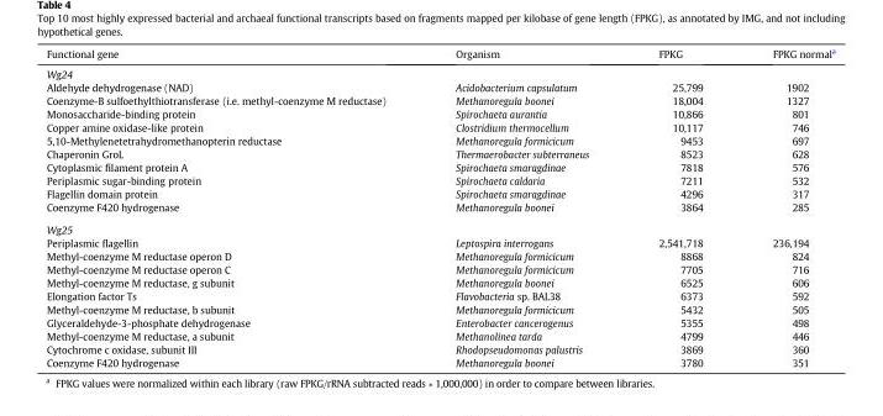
<table><thead><tr><td>Functional gene</td><td>Organism</td><td>FPKG</td><td>FPKG normal<sup>a</sup></td></tr></thead><tbody><tr><td colspan="4">Wg24</td></tr><tr><td>Aldehyde dehydrogenase (NAD)</td><td>Acidobacterium capsulatum</td><td>25,799</td><td>1902</td></tr><tr><td>Coenzyme-B sulfoethylthiotransferase (i.e. methyl-coenzyme M reductase)</td><td>Methanoregula boonei</td><td>18,004</td><td>1327</td></tr><tr><td>Monosaccharide-binding protein</td><td>Spirochaeta aurantia</td><td>10,866</td><td>801</td></tr><tr><td>Copper amine oxidase-like protein</td><td>Clostridium thermocellum</td><td>10,117</td><td>746</td></tr><tr><td>5,10-Methylenetetrahydromethanopterin reductase</td><td>Methanoregula formicicum</td><td>9453</td><td>697</td></tr><tr><td>Chaperonin GroL</td><td>Thermaerobacter subterraneus</td><td>8523</td><td>628</td></tr><tr><td>Cytoplasmic filament protein A</td><td>Spirochaeta smaragdinae</td><td>7818</td><td>576</td></tr><tr><td>Periplasmic sugar-binding protein</td><td>Spirochaeta caldaria</td><td>7211</td><td>532</td></tr><tr><td>Flagellin domain protein</td><td>Spirochaeta smaragdinae</td><td>4296</td><td>317</td></tr><tr><td>Coenzyme F420 hydrogenase</td><td>Methanoregula boonei</td><td>3864</td><td>285</td></tr><tr><td colspan="4">Wg25</td></tr><tr><td>Periplasmic flagellin</td><td>Leptospira interrogans</td><td>2,541,718</td><td>236,194</td></tr><tr><td>Methyl-coenzyme M reductase operon D</td><td>Methanoregula formicicum</td><td>8868</td><td>824</td></tr><tr><td>Methyl-coenzyme M reductase operon C</td><td>Methanoregula formicicum</td><td>7705</td><td>716</td></tr><tr><td>Methyl-coenzyme M reductase, g subunit</td><td>Methanoregula boonei</td><td>6525</td><td>606</td></tr><tr><td>Elongation factor Ts</td><td>Flavobacteria sp. BAL38</td><td>6373</td><td>592</td></tr><tr><td>Methyl-coenzyme M reductase, b subunit</td><td>Methanoregula formicicum</td><td>5432</td><td>505</td></tr><tr><td>Glyceraldehyde-3-phosphate dehydrogenase</td><td>Enterobacter cancerogenus</td><td>5355</td><td>498</td></tr><tr><td>Methyl-coenzyme M reductase, a subunit</td><td>Methanolinea tarda</td><td>4799</td><td>446</td></tr><tr><td>Cytochrome c oxidase, subunit III</td><td>Rhodopseudomonas palustris</td><td>3869</td><td>360</td></tr><tr><td>Coenzyme F420 hydrogenase</td><td>Methanoregula boonei</td><td>3780</td><td>351</td></tr></tbody></table>